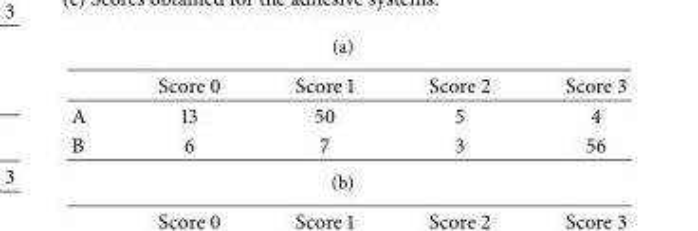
<table><thead><tr><td></td><td>Score 0</td><td>Score 1</td><td>Score 2</td><td>Score 3</td></tr></thead><tbody><tr><td>A</td><td>13</td><td>50</td><td>5</td><td>4</td></tr><tr><td>B</td><td>6</td><td>7</td><td>3</td><td>56</td></tr></tbody></table>